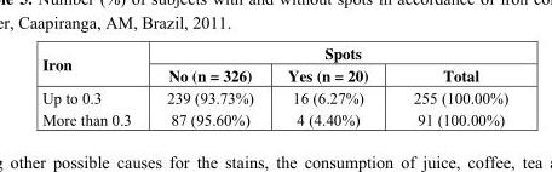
<table><thead><tr><td rowspan="2">Iron</td><td colspan="3">Spots</td></tr><tr><td>No (n = 326)</td><td>Yes (n = 20)</td><td>Total</td></tr></thead><tbody><tr><td>Up to 0.3</td><td>239 (93.73%)</td><td>16 (6.27%)</td><td>255 (100.00%)</td></tr><tr><td>More than 0.3</td><td>87 (95.60%)</td><td>4 (4.40%)</td><td>91 (100.00%)</td></tr></tbody></table>